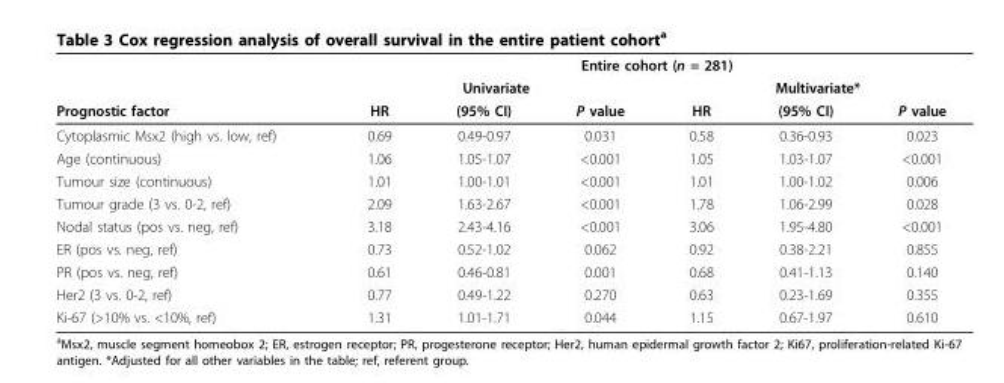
<table><thead><tr><td rowspan="3">Prognostic factor</td><td colspan="6">Entire cohort (n = 281)</td></tr><tr><td colspan="3">Univariate</td><td colspan="3">Multivariate*</td></tr><tr><td>HR</td><td>(95% CI)</td><td>P value</td><td>HR</td><td>(95% CI)</td><td>P value</td></tr></thead><tbody><tr><td>Cytoplasmic Msx2 (high vs. low, ref)</td><td>0.69</td><td>0.49-0.97</td><td>0.031</td><td>0.58</td><td>0.36-0.93</td><td>0.023</td></tr><tr><td>Age (continuous)</td><td>1.06</td><td>1.05-1.07</td><td>&lt;0.001</td><td>1.05</td><td>1.03-1.07</td><td>&lt;0.001</td></tr><tr><td>Tumour size (continuous)</td><td>1.01</td><td>1.00-1.01</td><td>&lt;0.001</td><td>1.01</td><td>1.00-1.02</td><td>0.006</td></tr><tr><td>Tumour grade (3 vs. 0-2, ref)</td><td>2.09</td><td>1.63-2.67</td><td>&lt;0.001</td><td>1.78</td><td>1.06-2.99</td><td>0.028</td></tr><tr><td>Nodal status (pos vs. neg, ref)</td><td>3.18</td><td>2.43-4.16</td><td>&lt;0.001</td><td>3.06</td><td>1.95-4.80</td><td>&lt;0.001</td></tr><tr><td>ER (pos vs. neg, ref)</td><td>0.73</td><td>0.52-1.02</td><td>0.062</td><td>0.92</td><td>0.38-2.21</td><td>0.855</td></tr><tr><td>PR (pos vs. neg, ref)</td><td>0.61</td><td>0.46-0.81</td><td>0.001</td><td>0.68</td><td>0.41-1.13</td><td>0.140</td></tr><tr><td>Her2 (3 vs. 0-2, ref)</td><td>0.77</td><td>0.49-1.22</td><td>0.270</td><td>0.63</td><td>0.23-1.69</td><td>0.355</td></tr><tr><td>Ki-67 (&gt;10% vs. &lt;10%, ref)</td><td>1.31</td><td>1.01-1.71</td><td>0.044</td><td>1.15</td><td>0.67-1.97</td><td>0.610</td></tr></tbody></table>